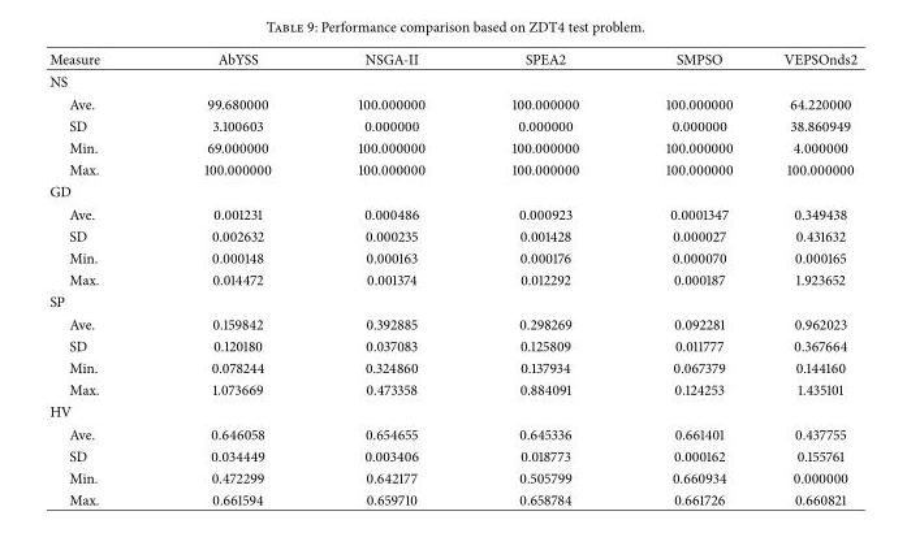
<table><thead><tr><td>Measure</td><td>AbYSS</td><td>NSGA-II</td><td>SPEA2</td><td>SMPSO</td><td>VEPSOnds2</td></tr></thead><tbody><tr><td colspan="6">NS</td></tr><tr><td>Ave.</td><td>99.680000</td><td>100.000000</td><td>100.000000</td><td>100.000000</td><td>64.220000</td></tr><tr><td>SD</td><td>3.100603</td><td>0.000000</td><td>0.000000</td><td>0.000000</td><td>38.860949</td></tr><tr><td>Min.</td><td>69.000000</td><td>100.000000</td><td>100.000000</td><td>100.000000</td><td>4.000000</td></tr><tr><td>Max.</td><td>100.000000</td><td>100.000000</td><td>100.000000</td><td>100.000000</td><td>100.000000</td></tr><tr><td colspan="6">GD</td></tr><tr><td>Ave.</td><td>0.001231</td><td>0.000486</td><td>0.000923</td><td>0.0001347</td><td>0.349438</td></tr><tr><td>SD</td><td>0.002632</td><td>0.000235</td><td>0.001428</td><td>0.000027</td><td>0.431632</td></tr><tr><td>Min.</td><td>0.000148</td><td>0.000163</td><td>0.000176</td><td>0.000070</td><td>0.000165</td></tr><tr><td>Max.</td><td>0.014472</td><td>0.001374</td><td>0.012292</td><td>0.000187</td><td>1.923652</td></tr><tr><td colspan="6">SP</td></tr><tr><td>Ave.</td><td>0.159842</td><td>0.392885</td><td>0.298269</td><td>0.092281</td><td>0.962023</td></tr><tr><td>SD</td><td>0.120180</td><td>0.037083</td><td>0.125809</td><td>0.011777</td><td>0.367664</td></tr><tr><td>Min.</td><td>0.078244</td><td>0.324860</td><td>0.137934</td><td>0.067379</td><td>0.144160</td></tr><tr><td>Max.</td><td>1.073669</td><td>0.473358</td><td>0.884091</td><td>0.124253</td><td>1.435101</td></tr><tr><td colspan="6">HV</td></tr><tr><td>Ave.</td><td>0.646058</td><td>0.654655</td><td>0.645336</td><td>0.661401</td><td>0.437755</td></tr><tr><td>SD</td><td>0.034449</td><td>0.003406</td><td>0.018773</td><td>0.000162</td><td>0.155761</td></tr><tr><td>Min.</td><td>0.472299</td><td>0.642177</td><td>0.505799</td><td>0.660934</td><td>0.000000</td></tr><tr><td>Max.</td><td>0.661594</td><td>0.659710</td><td>0.658784</td><td>0.661726</td><td>0.660821</td></tr></tbody></table>